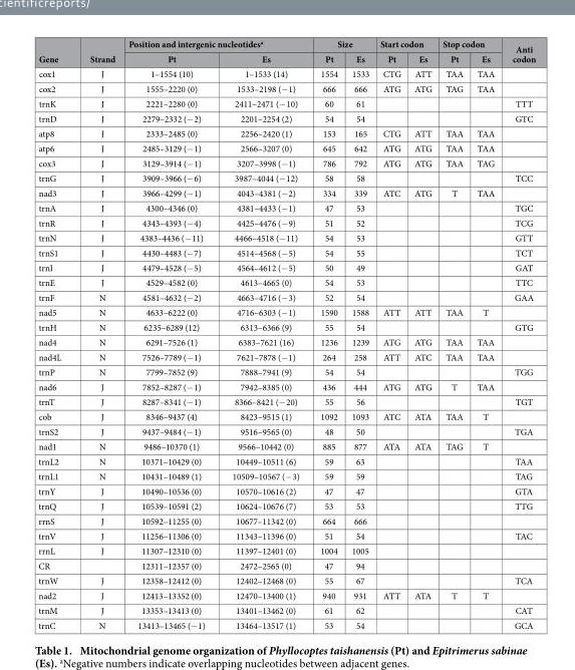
<table><thead><tr><td rowspan="2">Gene</td><td rowspan="2">Strand</td><td colspan="2">Position and intergenic nucleotides<sup>a</sup></td><td colspan="2">Size</td><td colspan="2">Start codon</td><td colspan="2">Stop codon</td><td rowspan="2">Anti codon</td></tr><tr><td>Pt</td><td>Es</td><td>Pt</td><td>Es</td><td>Pt</td><td>Es</td><td>Pt</td><td>Es</td></tr></thead><tbody><tr><td>cox1</td><td>J</td><td>1–1554 (10)</td><td>1–1533 (14)</td><td>1554</td><td>1533</td><td>CTG</td><td>ATT</td><td>TAA</td><td>TAA</td><td></td></tr><tr><td>cox2</td><td>J</td><td>1555–2220 (0)</td><td>1533–2198 (− 1)</td><td>666</td><td>666</td><td>ATG</td><td>ATG</td><td>TAG</td><td>TAA</td><td></td></tr><tr><td>trnK</td><td>J</td><td>2221–2280 (0)</td><td>2411–2471 (− 10)</td><td>60</td><td>61</td><td></td><td></td><td></td><td></td><td>TTT</td></tr><tr><td>trnD</td><td>J</td><td>2279–2332 (− 2)</td><td>2201–2254 (2)</td><td>54</td><td>54</td><td></td><td></td><td></td><td></td><td>GTC</td></tr><tr><td>atp8</td><td>J</td><td>2333–2485 (0)</td><td>2256–2420 (1)</td><td>153</td><td>165</td><td>CTG</td><td>ATT</td><td>TAA</td><td>TAA</td><td></td></tr><tr><td>atp6</td><td>J</td><td>2485–3129 (− 1)</td><td>2566–3207 (0)</td><td>645</td><td>642</td><td>ATG</td><td>ATG</td><td>TAA</td><td>TAA</td><td></td></tr><tr><td>cox3</td><td>J</td><td>3129–3914 (− 1)</td><td>3207–3998 (− 1)</td><td>786</td><td>792</td><td>ATG</td><td>ATG</td><td>TAA</td><td>TAG</td><td></td></tr><tr><td>trnG</td><td>J</td><td>3909–3966 (− 6)</td><td>3987–4044 (− 12)</td><td>58</td><td>58</td><td></td><td></td><td></td><td></td><td>TCC</td></tr><tr><td>nad3</td><td>J</td><td>3966–4299 (− 1)</td><td>4043–4381 (− 2)</td><td>334</td><td>339</td><td>ATC</td><td>ATG</td><td>T</td><td>TAA</td><td></td></tr><tr><td>trnA</td><td>J</td><td>4300–4346 (0)</td><td>4381–4433 (− 1)</td><td>47</td><td>53</td><td></td><td></td><td></td><td></td><td>TGC</td></tr><tr><td>trnR</td><td>J</td><td>4343–4393 (− 4)</td><td>4425–4476 (− 9)</td><td>51</td><td>52</td><td></td><td></td><td></td><td></td><td>TCG</td></tr><tr><td>trnN</td><td>J</td><td>4383–4436 (− 11)</td><td>4466–4518 (− 11)</td><td>54</td><td>53</td><td></td><td></td><td></td><td></td><td>GTT</td></tr><tr><td>trnS1</td><td>J</td><td>4430–4483 (− 7)</td><td>4514–4568 (− 5)</td><td>54</td><td>55</td><td></td><td></td><td></td><td></td><td>TCT</td></tr><tr><td>trnI</td><td>J</td><td>4479–4528 (− 5)</td><td>4564–4612 (− 5)</td><td>50</td><td>49</td><td></td><td></td><td></td><td></td><td>GAT</td></tr><tr><td>trnE</td><td>J</td><td>4529–4582 (0)</td><td>4613–4665 (0)</td><td>54</td><td>53</td><td></td><td></td><td></td><td></td><td>TTC</td></tr><tr><td>trnF</td><td>N</td><td>4581–4632 (− 2)</td><td>4663–4716 (− 3)</td><td>52</td><td>54</td><td></td><td></td><td></td><td></td><td>GAA</td></tr><tr><td>nad5</td><td>N</td><td>4633–6222 (0)</td><td>4716–6303 (− 1)</td><td>1590</td><td>1588</td><td>ATT</td><td>ATT</td><td>TAA</td><td>T</td><td></td></tr><tr><td>trnH</td><td>N</td><td>6235–6289 (12)</td><td>6313–6366 (9)</td><td>55</td><td>54</td><td></td><td></td><td></td><td></td><td>GTG</td></tr><tr><td>nad4</td><td>N</td><td>6291–7526 (1)</td><td>6383–7621 (16)</td><td>1236</td><td>1239</td><td>ATG</td><td>ATG</td><td>TAA</td><td>TAA</td><td></td></tr><tr><td>nad4L</td><td>N</td><td>7526–7789 (− 1)</td><td>7621–7878 (− 1)</td><td>264</td><td>258</td><td>ATT</td><td>ATC</td><td>TAA</td><td>TAA</td><td></td></tr><tr><td>trnP</td><td>N</td><td>7799–7852 (9)</td><td>7888–7941 (9)</td><td>54</td><td>54</td><td></td><td></td><td></td><td></td><td>TGG</td></tr><tr><td>nad6</td><td>J</td><td>7852–8287 (− 1)</td><td>7942–8385 (0)</td><td>436</td><td>444</td><td>ATG</td><td>ATG</td><td>T</td><td>TAA</td><td></td></tr><tr><td>trnT</td><td>J</td><td>8287–8341 (− 1)</td><td>8366–8421 (− 20)</td><td>55</td><td>56</td><td></td><td></td><td></td><td></td><td>TGT</td></tr><tr><td>cob</td><td>J</td><td>8346–9437 (4)</td><td>8423–9515 (1)</td><td>1092</td><td>1093</td><td>ATC</td><td>ATA</td><td>TAA</td><td>T</td><td></td></tr><tr><td>trnS2</td><td>J</td><td>9437–9484 (− 1)</td><td>9516–9565 (0)</td><td>48</td><td>50</td><td></td><td></td><td></td><td></td><td>TGA</td></tr><tr><td>nad1</td><td>N</td><td>9486–10370 (1)</td><td>9566–10442 (0)</td><td>885</td><td>877</td><td>ATA</td><td>ATA</td><td>TAG</td><td>T</td><td></td></tr><tr><td>trnL2</td><td>N</td><td>10371–10429 (0)</td><td>10449–10511 (6)</td><td>59</td><td>63</td><td></td><td></td><td></td><td></td><td>TAA</td></tr><tr><td>trnL1</td><td>N</td><td>10431–10489 (1)</td><td>10509–10567 (− 3)</td><td>59</td><td>59</td><td></td><td></td><td></td><td></td><td>TAG</td></tr><tr><td>trnY</td><td>J</td><td>10490–10536 (0)</td><td>10570–10616 (2)</td><td>47</td><td>47</td><td></td><td></td><td></td><td></td><td>GTA</td></tr><tr><td>trnQ</td><td>J</td><td>10539–10591 (2)</td><td>10624–10676 (7)</td><td>53</td><td>53</td><td></td><td></td><td></td><td></td><td>TTG</td></tr><tr><td>rrnS</td><td>J</td><td>10592–11255 (0)</td><td>10677–11342 (0)</td><td>664</td><td>666</td><td></td><td></td><td></td><td></td><td></td></tr><tr><td>trnV</td><td>J</td><td>11256–11306 (0)</td><td>11343–11396 (0)</td><td>51</td><td>54</td><td></td><td></td><td></td><td></td><td>TAC</td></tr><tr><td>rrnL</td><td>J</td><td>11307–12310 (0)</td><td>11397–12401 (0)</td><td>1004</td><td>1005</td><td></td><td></td><td></td><td></td><td></td></tr><tr><td>CR</td><td></td><td>12311–12357 (0)</td><td>2472–2565 (0)</td><td>47</td><td>94</td><td></td><td></td><td></td><td></td><td></td></tr><tr><td>trnW</td><td>J</td><td>12358–12412 (0)</td><td>12402–12468 (0)</td><td>55</td><td>67</td><td></td><td></td><td></td><td></td><td>TCA</td></tr><tr><td>nad2</td><td>J</td><td>12413–13352 (0)</td><td>12470–13400 (1)</td><td>940</td><td>931</td><td>ATT</td><td>ATA</td><td>T</td><td>T</td><td></td></tr><tr><td>trnM</td><td>J</td><td>13353–13413 (0)</td><td>13401–13462 (0)</td><td>61</td><td>62</td><td></td><td></td><td></td><td></td><td>CAT</td></tr><tr><td>trnC</td><td>N</td><td>13413–13465 (− 1)</td><td>13464–13517 (1)</td><td>53</td><td>54</td><td></td><td></td><td></td><td></td><td>GCA</td></tr></tbody></table>